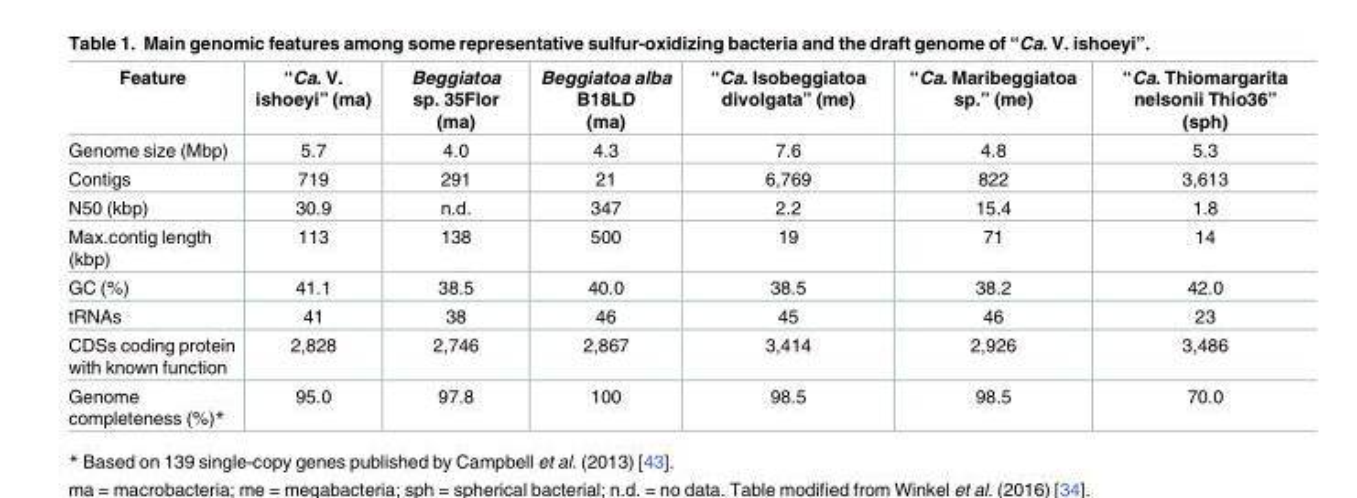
<table><thead><tr><td>Feature</td><td>“Ca. V. ishoeyi” (ma)</td><td>Beggiatoa sp. 35Flor (ma)</td><td>Beggiatoa alba B18LD (ma)</td><td>“Ca. Isobeggiatoa divolgata” (me)</td><td>“Ca. Maribeggiatoa sp.” (me)</td><td>“Ca. Thiomargarita nelsonii Thio36” (sph)</td></tr></thead><tbody><tr><td>Genome size (Mbp)</td><td>5.7</td><td>4.0</td><td>4.3</td><td>7.6</td><td>4.8</td><td>5.3</td></tr><tr><td>Contigs</td><td>719</td><td>291</td><td>21</td><td>6,769</td><td>822</td><td>3,613</td></tr><tr><td>N50 (kbp)</td><td>30.9</td><td>n.d.</td><td>347</td><td>2.2</td><td>15.4</td><td>1.8</td></tr><tr><td>Max.contig length (kbp)</td><td>113</td><td>138</td><td>500</td><td>19</td><td>71</td><td>14</td></tr><tr><td>GC (%)</td><td>41.1</td><td>38.5</td><td>40.0</td><td>38.5</td><td>38.2</td><td>42.0</td></tr><tr><td>tRNAs</td><td>41</td><td>38</td><td>46</td><td>45</td><td>46</td><td>23</td></tr><tr><td>CDSs coding protein with known function</td><td>2,828</td><td>2,746</td><td>2,867</td><td>3,414</td><td>2,926</td><td>3,486</td></tr><tr><td>Genome completeness (%)*</td><td>95.0</td><td>97.8</td><td>100</td><td>98.5</td><td>98.5</td><td>70.0</td></tr></tbody></table>